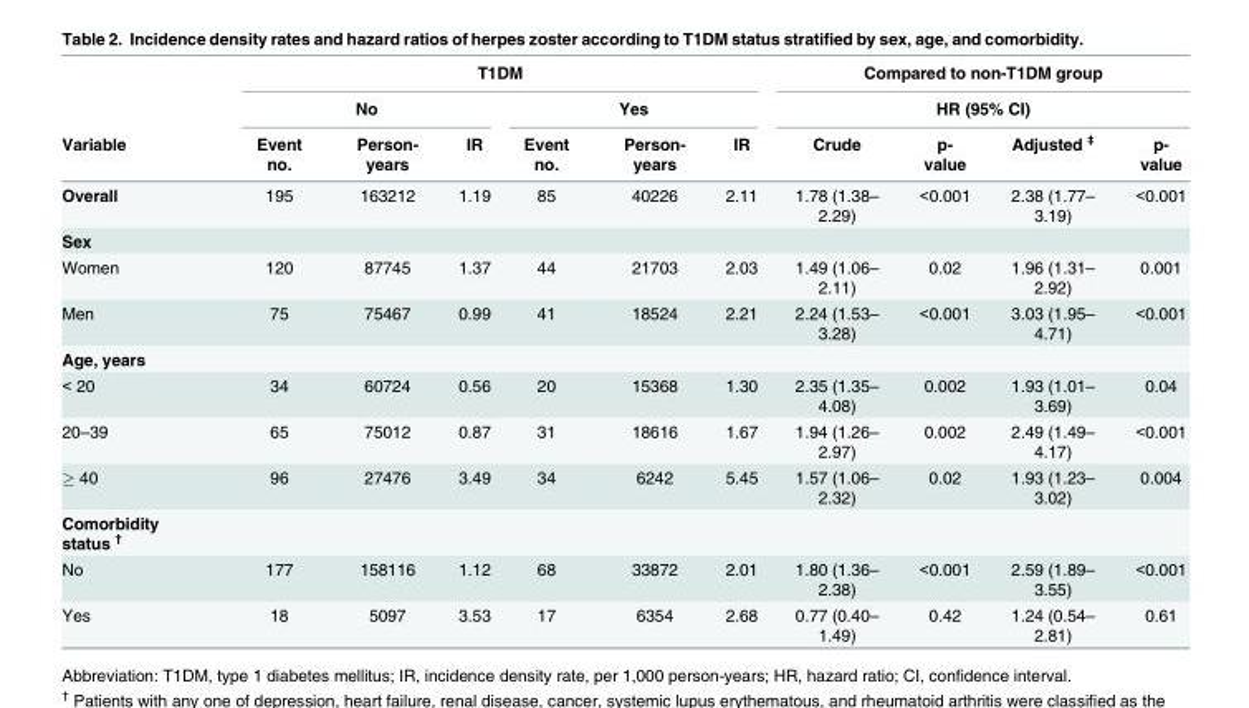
<table><thead><tr><td rowspan="3">Variable</td><td colspan="6">T1DM</td><td rowspan="2" colspan="4">Compared to non-T1DM group HR (95% CI)</td></tr><tr><td colspan="3">No</td><td colspan="3">Yes</td></tr><tr><td>Event no.</td><td>Person- years</td><td>IR</td><td>Event no.</td><td>Person- years</td><td>IR</td><td>Crude</td><td>p- value</td><td>Adjusted <sup>‡</sup></td><td>p- value</td></tr></thead><tbody><tr><td>Overall</td><td>195</td><td>163212</td><td>1.19</td><td>85</td><td>40226</td><td>2.11</td><td>1.78 (1.38– 2.29)</td><td>&lt;0.001</td><td>2.38 (1.77– 3.19)</td><td>&lt;0.001</td></tr><tr><td colspan="11">Sex</td></tr><tr><td>Women</td><td>120</td><td>87745</td><td>1.37</td><td>44</td><td>21703</td><td>2.03</td><td>1.49 (1.06– 2.11)</td><td>0.02</td><td>1.96 (1.31– 2.92)</td><td>0.001</td></tr><tr><td>Men</td><td>75</td><td>75467</td><td>0.99</td><td>41</td><td>18524</td><td>2.21</td><td>2.24 (1.53– 3.28)</td><td>&lt;0.001</td><td>3.03 (1.95– 4.71)</td><td>&lt;0.001</td></tr><tr><td colspan="11">Age, years</td></tr><tr><td>&lt; 20</td><td>34</td><td>60724</td><td>0.56</td><td>20</td><td>15368</td><td>1.30</td><td>2.35 (1.35– 4.08)</td><td>0.002</td><td>1.93 (1.01– 3.69)</td><td>0.04</td></tr><tr><td>20–39</td><td>65</td><td>75012</td><td>0.87</td><td>31</td><td>18616</td><td>1.67</td><td>1.94 (1.26– 2.97)</td><td>0.002</td><td>2.49 (1.49– 4.17)</td><td>&lt;0.001</td></tr><tr><td>≥ 40</td><td>96</td><td>27476</td><td>3.49</td><td>34</td><td>6242</td><td>5.45</td><td>1.57 (1.06– 2.32)</td><td>0.02</td><td>1.93 (1.23– 3.02)</td><td>0.004</td></tr><tr><td colspan="11">Comorbidity status <sup>†</sup></td></tr><tr><td>No</td><td>177</td><td>158116</td><td>1.12</td><td>68</td><td>33872</td><td>2.01</td><td>1.80 (1.36– 2.38)</td><td>&lt;0.001</td><td>2.59 (1.89– 3.55)</td><td>&lt;0.001</td></tr><tr><td>Yes</td><td>18</td><td>5097</td><td>3.53</td><td>17</td><td>6354</td><td>2.68</td><td>0.77 (0.40– 1.49)</td><td>0.42</td><td>1.24 (0.54– 2.81)</td><td>0.61</td></tr></tbody></table>